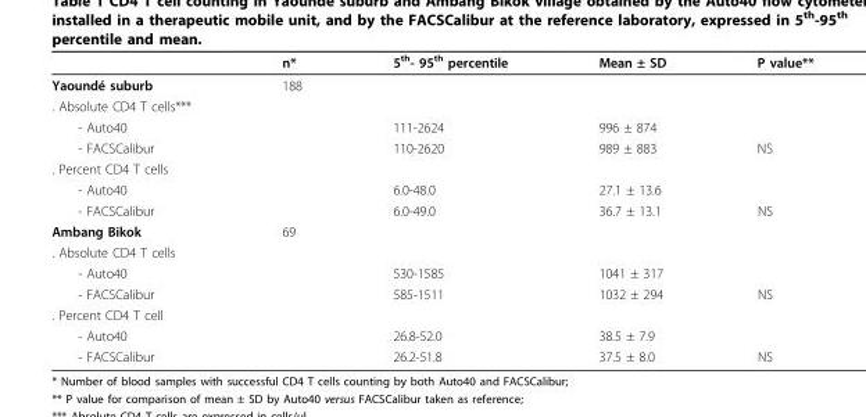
<table><thead><tr><td></td><td>n*</td><td>5<sup>th</sup>- 95<sup>th</sup> percentile</td><td>Mean ± SD</td><td>P value**</td></tr></thead><tbody><tr><td>Yaoundé suburb</td><td>188</td><td></td><td></td><td></td></tr><tr><td colspan="5">. Absolute CD4 T cells***</td></tr><tr><td>- Auto40</td><td></td><td>111-2624</td><td>996 ± 874</td><td></td></tr><tr><td>- FACSCalibur</td><td></td><td>110-2620</td><td>989 ± 883</td><td>NS</td></tr><tr><td colspan="5">. Percent CD4 T cells</td></tr><tr><td>- Auto40</td><td></td><td>6.0-48.0</td><td>27.1 ± 13.6</td><td></td></tr><tr><td>- FACSCalibur</td><td></td><td>6.0-49.0</td><td>36.7 ± 13.1</td><td>NS</td></tr><tr><td>Ambang Bikok</td><td>69</td><td></td><td></td><td></td></tr><tr><td colspan="5">. Absolute CD4 T cells</td></tr><tr><td>- Auto40</td><td></td><td>530-1585</td><td>1041 ± 317</td><td></td></tr><tr><td>- FACSCalibur</td><td></td><td>585-1511</td><td>1032 ± 294</td><td>NS</td></tr><tr><td colspan="5">. Percent CD4 T cell</td></tr><tr><td>- Auto40</td><td></td><td>26.8-52.0</td><td>38.5 ± 7.9</td><td></td></tr><tr><td>- FACSCalibur</td><td></td><td>26.2-51.8</td><td>37.5 ± 8.0</td><td>NS</td></tr></tbody></table>